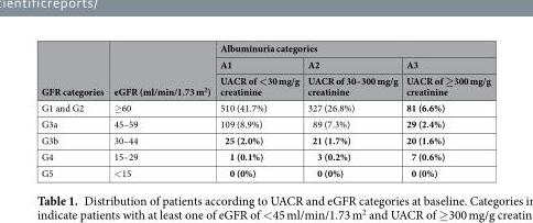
<table><thead><tr><td rowspan="3">GFR categories</td><td rowspan="3">eGFR (ml/min/1.73 m<sup>2</sup>)</td><td colspan="3">Albuminuria categories</td></tr><tr><td rowspan="2">A1 UACR of &lt;30 mg/g creatinine</td><td rowspan="2">A2 UACR of 30–300 mg/g creatinine</td><td rowspan="2">A3 UACR of ≥300 mg/g creatinine</td></tr><tr></tr></thead><tbody><tr><td>G1 and G2</td><td>≥60</td><td>510 (41.7%)</td><td>327 (26.8%)</td><td>81 (6.6%)</td></tr><tr><td>G3a</td><td>45–59</td><td>109 (8.9%)</td><td>89 (7.3%)</td><td>29 (2.4%)</td></tr><tr><td>G3b</td><td>30–44</td><td>25 (2.0%)</td><td>21 (1.7%)</td><td>20 (1.6%)</td></tr><tr><td>G4</td><td>15–29</td><td>1 (0.1%)</td><td>3 (0.2%)</td><td>7 (0.6%)</td></tr><tr><td>G5</td><td>&lt;15</td><td>0 (0%)</td><td>0 (0%)</td><td>0 (0%)</td></tr></tbody></table>